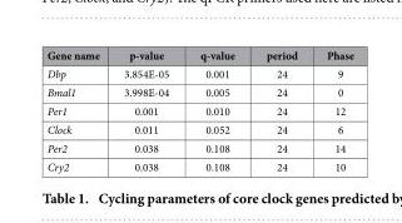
<table><thead><tr><td>Gene name</td><td>p-value</td><td>q-value</td><td>period</td><td>Phase</td></tr></thead><tbody><tr><td>Dbp</td><td>3.854E-05</td><td>0.001</td><td>24</td><td>9</td></tr><tr><td>Bmal1</td><td>3.998E-04</td><td>0.005</td><td>24</td><td>0</td></tr><tr><td>Per1</td><td>0.001</td><td>0.010</td><td>24</td><td>12</td></tr><tr><td>Clock</td><td>0.011</td><td>0.052</td><td>24</td><td>6</td></tr><tr><td>Per2</td><td>0.038</td><td>0.108</td><td>24</td><td>14</td></tr><tr><td>Cry2</td><td>0.038</td><td>0.108</td><td>24</td><td>10</td></tr></tbody></table>